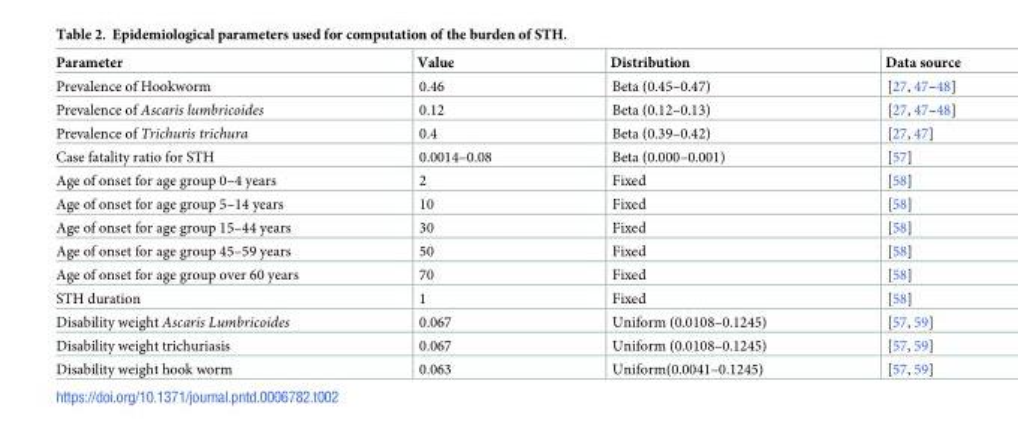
<table><thead><tr><td>Parameter</td><td>Value</td><td>Distribution</td><td>Data source</td></tr></thead><tbody><tr><td>Prevalence of Hookworm</td><td>0.46</td><td>Beta (0.45–0.47)</td><td>[27, 47–48]</td></tr><tr><td>Prevalence of Ascaris lumbricoides</td><td>0.12</td><td>Beta (0.12–0.13)</td><td>[27, 47–48]</td></tr><tr><td>Prevalence of Trichuris trichura</td><td>0.4</td><td>Beta (0.39–0.42)</td><td>[27, 47]</td></tr><tr><td>Case fatality ratio for STH</td><td>0.0014–0.08</td><td>Beta (0.000–0.001)</td><td>[57]</td></tr><tr><td>Age of onset for age group 0–4 years</td><td>2</td><td>Fixed</td><td>[58]</td></tr><tr><td>Age of onset for age group 5–14 years</td><td>10</td><td>Fixed</td><td>[58]</td></tr><tr><td>Age of onset for age group 15–44 years</td><td>30</td><td>Fixed</td><td>[58]</td></tr><tr><td>Age of onset for age group 45–59 years</td><td>50</td><td>Fixed</td><td>[58]</td></tr><tr><td>Age of onset for age group over 60 years</td><td>70</td><td>Fixed</td><td>[58]</td></tr><tr><td>STH duration</td><td>1</td><td>Fixed</td><td>[58]</td></tr><tr><td>Disability weight Ascaris Lumbricoides</td><td>0.067</td><td>Uniform (0.0108–0.1245)</td><td>[57, 59]</td></tr><tr><td>Disability weight trichuriasis</td><td>0.067</td><td>Uniform (0.0108–0.1245)</td><td>[57, 59]</td></tr><tr><td>Disability weight hook worm</td><td>0.063</td><td>Uniform(0.0041–0.1245)</td><td>[57, 59]</td></tr></tbody></table>